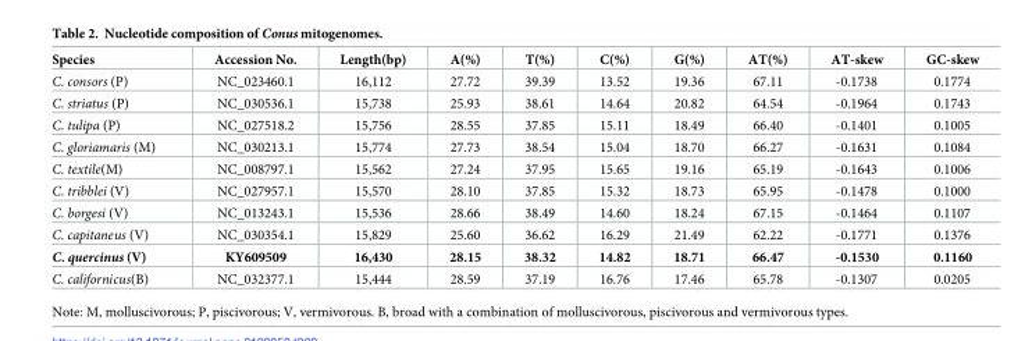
<table><thead><tr><td>Species</td><td>Accession No.</td><td>Length(bp)</td><td>A(%)</td><td>T(%)</td><td>C(%)</td><td>G(%)</td><td>AT(%)</td><td>AT-skew</td><td>GC-skew</td></tr></thead><tbody><tr><td>C. consors (P)</td><td>NC_023460.1</td><td>16,112</td><td>27.72</td><td>39.39</td><td>13.52</td><td>19.36</td><td>67.11</td><td>-0.1738</td><td>0.1774</td></tr><tr><td>C. striatus (P)</td><td>NC_030536.1</td><td>15,738</td><td>25.93</td><td>38.61</td><td>14.64</td><td>20.82</td><td>64.54</td><td>-0.1964</td><td>0.1743</td></tr><tr><td>C. tulipa (P)</td><td>NC_027518.2</td><td>15,756</td><td>28.55</td><td>37.85</td><td>15.11</td><td>18.49</td><td>66.40</td><td>-0.1401</td><td>0.1005</td></tr><tr><td>C. gloriamaris (M)</td><td>NC_030213.1</td><td>15,774</td><td>27.73</td><td>38.54</td><td>15.04</td><td>18.70</td><td>66.27</td><td>-0.1631</td><td>0.1084</td></tr><tr><td>C. textile(M)</td><td>NC_008797.1</td><td>15,562</td><td>27.24</td><td>37.95</td><td>15.65</td><td>19.16</td><td>65.19</td><td>-0.1643</td><td>0.1006</td></tr><tr><td>C. tribblei (V)</td><td>NC_027957.1</td><td>15,570</td><td>28.10</td><td>37.85</td><td>15.32</td><td>18.73</td><td>65.95</td><td>-0.1478</td><td>0.1000</td></tr><tr><td>C. borgesi (V)</td><td>NC_013243.1</td><td>15,536</td><td>28.66</td><td>38.49</td><td>14.60</td><td>18.24</td><td>67.15</td><td>-0.1464</td><td>0.1107</td></tr><tr><td>C. capitaneus (V)</td><td>NC_030354.1</td><td>15,829</td><td>25.60</td><td>36.62</td><td>16.29</td><td>21.49</td><td>62.22</td><td>-0.1771</td><td>0.1376</td></tr><tr><td>C. quercinus (V)</td><td>KY609509</td><td>16,430</td><td>28.15</td><td>38.32</td><td>14.82</td><td>18.71</td><td>66.47</td><td>-0.1530</td><td>0.1160</td></tr><tr><td>C. californicus(B)</td><td>NC_032377.1</td><td>15,444</td><td>28.59</td><td>37.19</td><td>16.76</td><td>17.46</td><td>65.78</td><td>-0.1307</td><td>0.0205</td></tr></tbody></table>